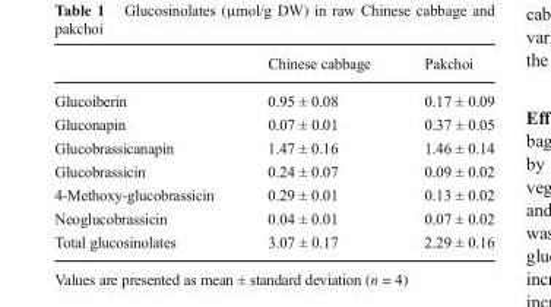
<table><thead><tr><td></td><td>Chinese cabbage</td><td>Pakchoi</td></tr></thead><tbody><tr><td>Glucoiberin</td><td>0.95 ± 0.08</td><td>0.17 ± 0.09</td></tr><tr><td>Gluconapin</td><td>0.07 ± 0.01</td><td>0.37 ± 0.05</td></tr><tr><td>Glucobrassicanapin</td><td>1.47 ± 0.16</td><td>1.46 ± 0.14</td></tr><tr><td>Glucobrassicin</td><td>0.24 ± 0.07</td><td>0.09 ± 0.02</td></tr><tr><td>4-Methoxy-glucobrassicin</td><td>0.29 ± 0.01</td><td>0.13 ± 0.02</td></tr><tr><td>Neoglucobrassicin</td><td>0.04 ± 0.01</td><td>0.07 ± 0.02</td></tr><tr><td>Total glucosinolates</td><td>3.07 ± 0.17</td><td>2.29 ± 0.16</td></tr></tbody></table>